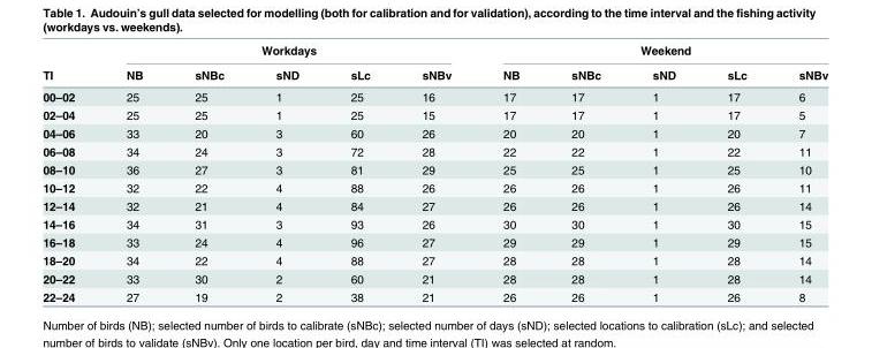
<table><thead><tr><td rowspan="2">TI</td><td colspan="5">Workdays</td><td colspan="5">Weekend</td></tr><tr><td>NB</td><td>sNBc</td><td>sND</td><td>sLc</td><td>sNBv</td><td>NB</td><td>sNBc</td><td>sND</td><td>sLc</td><td>sNBv</td></tr></thead><tbody><tr><td>00–02</td><td>25</td><td>25</td><td>1</td><td>25</td><td>16</td><td>17</td><td>17</td><td>1</td><td>17</td><td>6</td></tr><tr><td>02–04</td><td>25</td><td>25</td><td>1</td><td>25</td><td>15</td><td>17</td><td>17</td><td>1</td><td>17</td><td>5</td></tr><tr><td>04–06</td><td>33</td><td>20</td><td>3</td><td>60</td><td>26</td><td>20</td><td>20</td><td>1</td><td>20</td><td>7</td></tr><tr><td>06–08</td><td>34</td><td>24</td><td>3</td><td>72</td><td>28</td><td>22</td><td>22</td><td>1</td><td>22</td><td>11</td></tr><tr><td>08–10</td><td>36</td><td>27</td><td>3</td><td>81</td><td>29</td><td>25</td><td>25</td><td>1</td><td>25</td><td>10</td></tr><tr><td>10–12</td><td>32</td><td>22</td><td>4</td><td>88</td><td>26</td><td>26</td><td>26</td><td>1</td><td>26</td><td>11</td></tr><tr><td>12–14</td><td>32</td><td>21</td><td>4</td><td>84</td><td>27</td><td>26</td><td>26</td><td>1</td><td>26</td><td>14</td></tr><tr><td>14–16</td><td>34</td><td>31</td><td>3</td><td>93</td><td>26</td><td>30</td><td>30</td><td>1</td><td>30</td><td>15</td></tr><tr><td>16–18</td><td>33</td><td>24</td><td>4</td><td>96</td><td>27</td><td>29</td><td>29</td><td>1</td><td>29</td><td>15</td></tr><tr><td>18–20</td><td>34</td><td>22</td><td>4</td><td>88</td><td>27</td><td>28</td><td>28</td><td>1</td><td>28</td><td>14</td></tr><tr><td>20–22</td><td>33</td><td>30</td><td>2</td><td>60</td><td>21</td><td>28</td><td>28</td><td>1</td><td>28</td><td>14</td></tr><tr><td>22–24</td><td>27</td><td>19</td><td>2</td><td>38</td><td>21</td><td>26</td><td>26</td><td>1</td><td>26</td><td>8</td></tr></tbody></table>